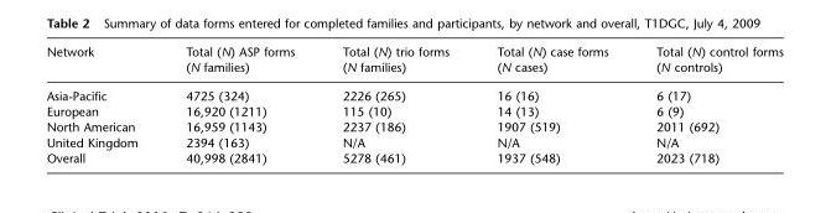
<table><thead><tr><td>Network</td><td>Total (N) ASP forms (N families)</td><td>Total (N) trio forms (N families)</td><td>Total (N) case forms (N cases)</td><td>Total (N) control forms (N controls)</td></tr></thead><tbody><tr><td>Asia-Pacific</td><td>4725 (324)</td><td>2226 (265)</td><td>16 (16)</td><td>6 (17)</td></tr><tr><td>European</td><td>16,920 (1211)</td><td>115 (10)</td><td>14 (13)</td><td>6 (9)</td></tr><tr><td>North American</td><td>16,959 (1143)</td><td>2237 (186)</td><td>1907 (519)</td><td>2011 (692)</td></tr><tr><td>United Kingdom</td><td>2394 (163)</td><td>N/A</td><td>N/A</td><td>N/A</td></tr><tr><td>Overall</td><td>40,998 (2841)</td><td>5278 (461)</td><td>1937 (548)</td><td>2023 (718)</td></tr></tbody></table>